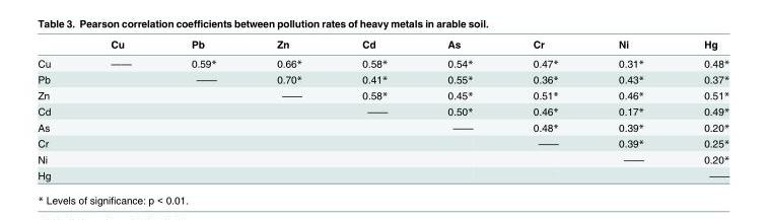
<table><thead><tr><td></td><td>Cu</td><td>Pb</td><td>Zn</td><td>Cd</td><td>As</td><td>Cr</td><td>Ni</td><td>Hg</td></tr></thead><tbody><tr><td>Cu</td><td>——</td><td>0.59*</td><td>0.66*</td><td>0.58*</td><td>0.54*</td><td>0.47*</td><td>0.31*</td><td>0.48*</td></tr><tr><td>Pb</td><td></td><td>——</td><td>0.70*</td><td>0.41*</td><td>0.55*</td><td>0.36*</td><td>0.43*</td><td>0.37*</td></tr><tr><td>Zn</td><td></td><td></td><td>——</td><td>0.58*</td><td>0.45*</td><td>0.51*</td><td>0.46*</td><td>0.51*</td></tr><tr><td>Cd</td><td></td><td></td><td></td><td>——</td><td>0.50*</td><td>0.46*</td><td>0.17*</td><td>0.49*</td></tr><tr><td>As</td><td></td><td></td><td></td><td></td><td>——</td><td>0.48*</td><td>0.39*</td><td>0.20*</td></tr><tr><td>Cr</td><td></td><td></td><td></td><td></td><td></td><td>——</td><td>0.39*</td><td>0.25*</td></tr><tr><td>Ni</td><td></td><td></td><td></td><td></td><td></td><td></td><td>——</td><td>0.20*</td></tr><tr><td>Hg</td><td></td><td></td><td></td><td></td><td></td><td></td><td></td><td>——</td></tr></tbody></table>